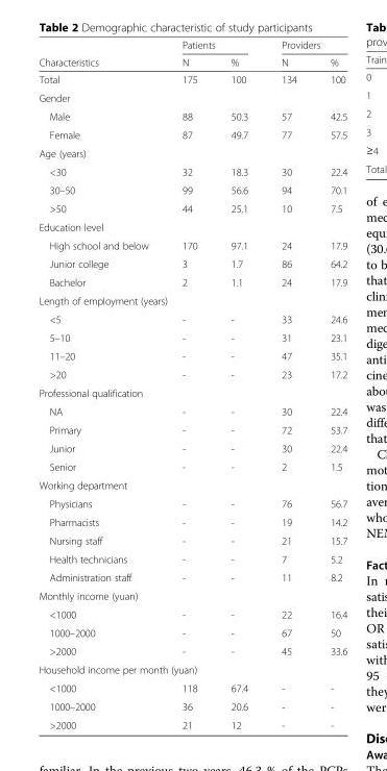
<table><thead><tr><td rowspan="2">Characteristics</td><td colspan="2">Patients</td><td colspan="2">Providers</td></tr><tr><td>N</td><td>%</td><td>N</td><td>%</td></tr></thead><tbody><tr><td>Total</td><td>175</td><td>100</td><td>134</td><td>100</td></tr><tr><td colspan="5">Gender</td></tr><tr><td>Male</td><td>88</td><td>50.3</td><td>57</td><td>42.5</td></tr><tr><td>Female</td><td>87</td><td>49.7</td><td>77</td><td>57.5</td></tr><tr><td colspan="5">Age (years)</td></tr><tr><td>&lt;30</td><td>32</td><td>18.3</td><td>30</td><td>22.4</td></tr><tr><td>30–50</td><td>99</td><td>56.6</td><td>94</td><td>70.1</td></tr><tr><td>&gt;50</td><td>44</td><td>25.1</td><td>10</td><td>7.5</td></tr><tr><td colspan="5">Education level</td></tr><tr><td>High school and below</td><td>170</td><td>97.1</td><td>24</td><td>17.9</td></tr><tr><td>Junior college</td><td>3</td><td>1.7</td><td>86</td><td>64.2</td></tr><tr><td>Bachelor</td><td>2</td><td>1.1</td><td>24</td><td>17.9</td></tr><tr><td colspan="5">Length of employment (years)</td></tr><tr><td>&lt;5</td><td>-</td><td>-</td><td>33</td><td>24.6</td></tr><tr><td>5–10</td><td>-</td><td>-</td><td>31</td><td>23.1</td></tr><tr><td>11–20</td><td>-</td><td>-</td><td>47</td><td>35.1</td></tr><tr><td>&gt;20</td><td>-</td><td>-</td><td>23</td><td>17.2</td></tr><tr><td colspan="5">Professional qualification</td></tr><tr><td>NA</td><td>-</td><td>-</td><td>30</td><td>22.4</td></tr><tr><td>Primary</td><td>-</td><td>-</td><td>72</td><td>53.7</td></tr><tr><td>Junior</td><td>-</td><td>-</td><td>30</td><td>22.4</td></tr><tr><td>Senior</td><td>-</td><td>-</td><td>2</td><td>1.5</td></tr><tr><td colspan="5">Working department</td></tr><tr><td>Physicians</td><td>-</td><td>-</td><td>76</td><td>56.7</td></tr><tr><td>Pharmacists</td><td>-</td><td>-</td><td>19</td><td>14.2</td></tr><tr><td>Nursing staff</td><td>-</td><td>-</td><td>21</td><td>15.7</td></tr><tr><td>Health technicians</td><td>-</td><td>-</td><td>7</td><td>5.2</td></tr><tr><td>Administration staff</td><td>-</td><td>-</td><td>11</td><td>8.2</td></tr><tr><td colspan="5">Monthly income (yuan)</td></tr><tr><td>&lt;1000</td><td>-</td><td>-</td><td>22</td><td>16.4</td></tr><tr><td>1000–2000</td><td>-</td><td>-</td><td>67</td><td>50</td></tr><tr><td>&gt;2000</td><td>-</td><td>-</td><td>45</td><td>33.6</td></tr><tr><td colspan="5">Household income per month (yuan)</td></tr><tr><td>&lt;1000</td><td>118</td><td>67.4</td><td>-</td><td>-</td></tr><tr><td>1000–2000</td><td>36</td><td>20.6</td><td>-</td><td>-</td></tr><tr><td>&gt;2000</td><td>21</td><td>12</td><td>-</td><td>-</td></tr></tbody></table>